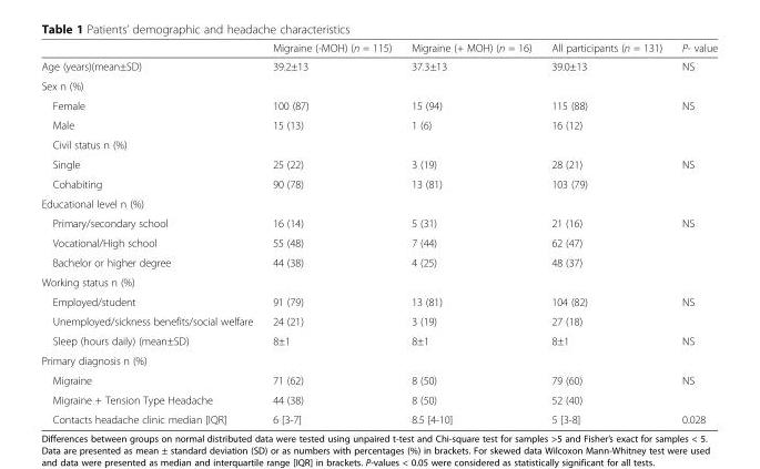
<table><thead><tr><td></td><td>Migraine (-MOH) (n = 115)</td><td>Migraine (+ MOH) (n = 16)</td><td>All participants (n = 131)</td><td>P- value</td></tr></thead><tbody><tr><td>Age (years)(mean±SD)</td><td>39.2±13</td><td>37.3±13</td><td>39.0±13</td><td>NS</td></tr><tr><td colspan="5">Sex n (%)</td></tr><tr><td>Female</td><td>100 (87)</td><td>15 (94)</td><td>115 (88)</td><td>NS</td></tr><tr><td>Male</td><td>15 (13)</td><td>1 (6)</td><td>16 (12)</td><td></td></tr><tr><td colspan="5">Civil status n (%)</td></tr><tr><td>Single</td><td>25 (22)</td><td>3 (19)</td><td>28 (21)</td><td rowspan="2">NS</td></tr><tr><td>Cohabiting</td><td>90 (78)</td><td>13 (81)</td><td>103 (79)</td></tr><tr><td colspan="5">Educational level n (%)</td></tr><tr><td>Primary/secondary school</td><td>16 (14)</td><td>5 (31)</td><td>21 (16)</td><td rowspan="3">NS</td></tr><tr><td>Vocational/High school</td><td>55 (48)</td><td>7 (44)</td><td>62 (47)</td></tr><tr><td>Bachelor or higher degree</td><td>44 (38)</td><td>4 (25)</td><td>48 (37)</td></tr><tr><td colspan="5">Working status n (%)</td></tr><tr><td>Employed/student</td><td>91 (79)</td><td>13 (81)</td><td>104 (82)</td><td rowspan="2">NS</td></tr><tr><td>Unemployed/sickness benefits/social welfare</td><td>24 (21)</td><td>3 (19)</td><td>27 (18)</td></tr><tr><td>Sleep (hours daily) (mean±SD)</td><td>8±1</td><td>8±1</td><td>8±1</td><td>NS</td></tr><tr><td colspan="5">Primary diagnosis n (%)</td></tr><tr><td>Migraine</td><td>71 (62)</td><td>8 (50)</td><td>79 (60)</td><td rowspan="2">NS</td></tr><tr><td>Migraine + Tension Type Headache</td><td>44 (38)</td><td>8 (50)</td><td>52 (40)</td></tr><tr><td>Contacts headache clinic median [IQR]</td><td>6 [3-7]</td><td>8.5 [4-10]</td><td>5 [3-8]</td><td>0.028</td></tr></tbody></table>